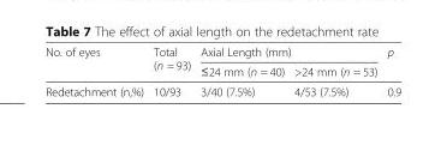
<table><thead><tr><td rowspan="2">No. of eyes</td><td rowspan="2">Total (n = 93)</td><td colspan="2">Axial Length (mm)</td><td rowspan="2">p</td></tr><tr><td>≤24 mm (n = 40)</td><td>&gt;24 mm (n = 53)</td></tr></thead><tbody><tr><td>Redetachment (n,%)</td><td>10/93</td><td>3/40 (7.5%)</td><td>4/53 (7.5%)</td><td>0.9</td></tr></tbody></table>